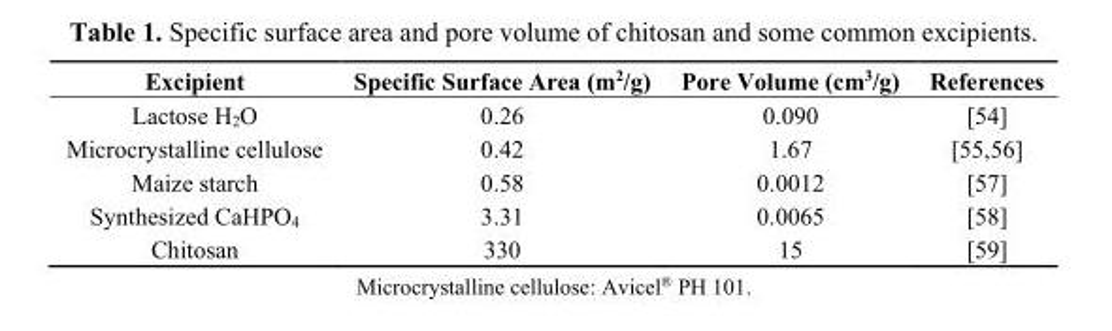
<table><thead><tr><td>Excipient</td><td>Specific Surface Area (m<sup>2</sup>/g)</td><td>Pore Volume (cm<sup>3</sup>/g)</td><td>References</td></tr></thead><tbody><tr><td>Lactose H<sub>2</sub>O</td><td>0.26</td><td>0.090</td><td>[54]</td></tr><tr><td>Microcrystalline cellulose</td><td>0.42</td><td>1.67</td><td>[55,56]</td></tr><tr><td>Maize starch</td><td>0.58</td><td>0.0012</td><td>[57]</td></tr><tr><td>Synthesized CaHPO<sub>4</sub></td><td>3.31</td><td>0.0065</td><td>[58]</td></tr><tr><td>Chitosan</td><td>330</td><td>15</td><td>[59]</td></tr></tbody></table>